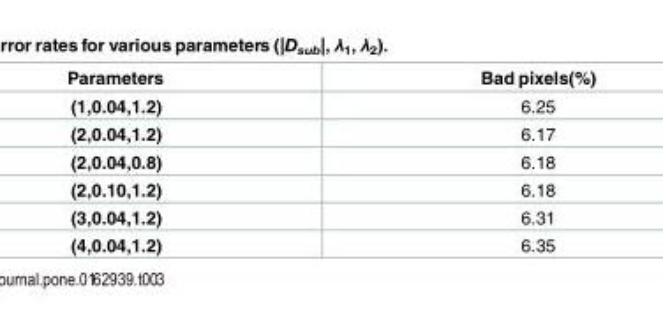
<table><thead><tr><td>Parameters</td><td>Bad pixels(%)</td></tr></thead><tbody><tr><td>(1,0.04,1.2)</td><td>6.25</td></tr><tr><td>(2,0.04,1.2)</td><td>6.17</td></tr><tr><td>(2,0.04,0.8)</td><td>6.18</td></tr><tr><td>(2,0.10,1.2)</td><td>6.18</td></tr><tr><td>(3,0.04,1.2)</td><td>6.31</td></tr><tr><td>(4,0.04,1.2)</td><td>6.35</td></tr></tbody></table>